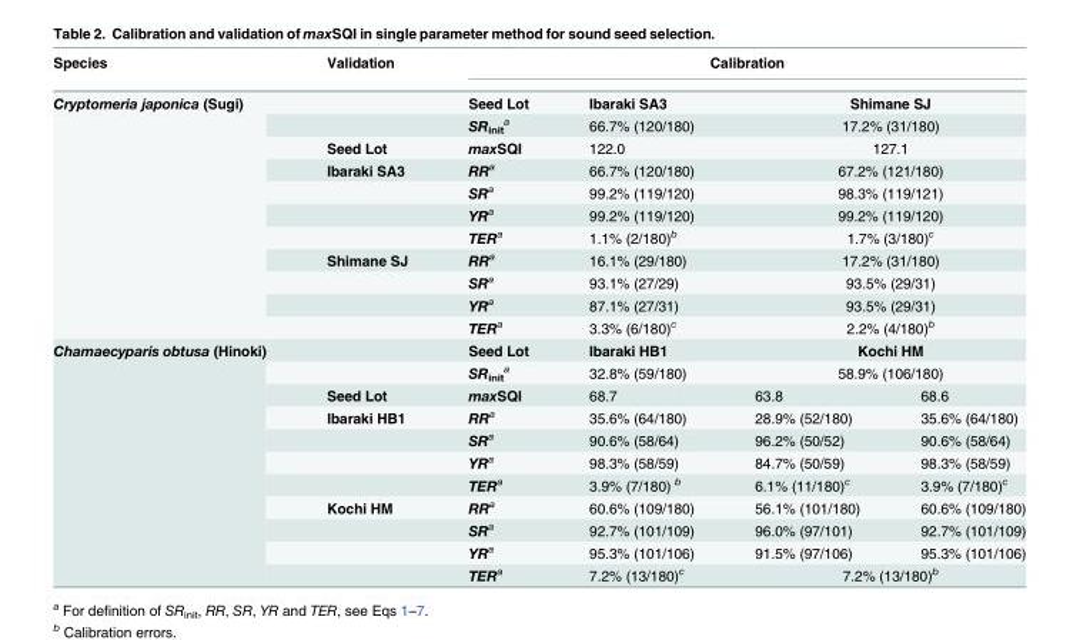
<table><thead><tr><td>Species</td><td>Validation</td><td colspan="4">Calibration</td></tr></thead><tbody><tr><td rowspan="11">Cryptomeria japonica (Sugi)</td><td></td><td>Seed Lot</td><td>Ibaraki SA3</td><td colspan="2">Shimane SJ</td></tr><tr><td></td><td>SR<sub>init</sub> <sup>a</sup></td><td>66.7% (120/180)</td><td colspan="2">17.2% (31/180)</td></tr><tr><td>Seed Lot</td><td>maxSQI</td><td>122.0</td><td colspan="2">127.1</td></tr><tr><td>Ibaraki SA3</td><td>RR<sup>a</sup></td><td>66.7% (120/180)</td><td colspan="2">67.2% (121/180)</td></tr><tr><td></td><td>SR<sup>a</sup></td><td>99.2% (119/120)</td><td colspan="2">98.3% (119/121)</td></tr><tr><td></td><td>YR<sup>a</sup></td><td>99.2% (119/120)</td><td colspan="2">99.2% (119/120)</td></tr><tr><td></td><td>TER<sup>a</sup></td><td>1.1% (2/180)<sup>b</sup></td><td colspan="2">1.7% (3/180)<sup>c</sup></td></tr><tr><td>Shimane SJ</td><td>RR<sup>a</sup></td><td>16.1% (29/180)</td><td colspan="2">17.2% (31/180)</td></tr><tr><td></td><td>SR<sup>a</sup></td><td>93.1% (27/29)</td><td colspan="2">93.5% (29/31)</td></tr><tr><td></td><td>YR<sup>a</sup></td><td>87.1% (27/31)</td><td colspan="2">93.5% (29/31)</td></tr><tr><td></td><td>TER<sup>a</sup></td><td>3.3% (6/180)<sup>c</sup></td><td colspan="2">2.2% (4/180)<sup>b</sup></td></tr><tr><td rowspan="11">Chamaecyparis obtusa (Hinoki)</td><td></td><td>Seed Lot</td><td>Ibaraki HB1</td><td colspan="2">Kochi HM</td></tr><tr><td></td><td>SR<sub>init</sub> <sup>a</sup></td><td>32.8% (59/180)</td><td colspan="2">58.9% (106/180)</td></tr><tr><td>Seed Lot</td><td>maxSQI</td><td>68.7</td><td>63.8</td><td>68.6</td></tr><tr><td>Ibaraki HB1</td><td>RR<sup>a</sup></td><td>35.6% (64/180)</td><td>28.9% (52/180)</td><td>35.6% (64/180)</td></tr><tr><td></td><td>SR<sup>a</sup></td><td>90.6% (58/64)</td><td>96.2% (50/52)</td><td>90.6% (58/64)</td></tr><tr><td></td><td>YR<sup>a</sup></td><td>98.3% (58/59)</td><td>84.7% (50/59)</td><td>98.3% (58/59)</td></tr><tr><td></td><td>TER<sup>a</sup></td><td>3.9% (7/180) <sup>b</sup></td><td>6.1% (11/180)<sup>c</sup></td><td>3.9% (7/180)<sup>c</sup></td></tr><tr><td>Kochi HM</td><td>RR<sup>a</sup></td><td>60.6% (109/180)</td><td>56.1% (101/180)</td><td>60.6% (109/180)</td></tr><tr><td></td><td>SR<sup>a</sup></td><td>92.7% (101/109)</td><td>96.0% (97/101)</td><td>92.7% (101/109)</td></tr><tr><td></td><td>YR<sup>a</sup></td><td>95.3% (101/106)</td><td>91.5% (97/106)</td><td>95.3% (101/106)</td></tr><tr><td></td><td>TER<sup>a</sup></td><td>7.2% (13/180)<sup>c</sup></td><td colspan="2">7.2% (13/180)<sup>b</sup></td></tr></tbody></table>